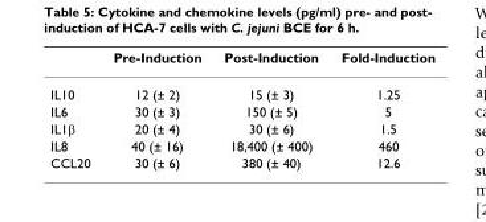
<table><thead><tr><td></td><td>Pre-Induction</td><td>Post-Induction</td><td>Fold-Induction</td></tr></thead><tbody><tr><td>IL10</td><td>12 (± 2)</td><td>15 (± 3)</td><td>1.25</td></tr><tr><td>IL6</td><td>30 (± 3)</td><td>150 (± 5)</td><td>5</td></tr><tr><td>IL1β</td><td>20 (± 4)</td><td>30 (± 6)</td><td>1.5</td></tr><tr><td>IL8</td><td>40 (± 16)</td><td>18,400 (± 400)</td><td>460</td></tr><tr><td>CCL20</td><td>30 (± 6)</td><td>380 (± 40)</td><td>12.6</td></tr></tbody></table>